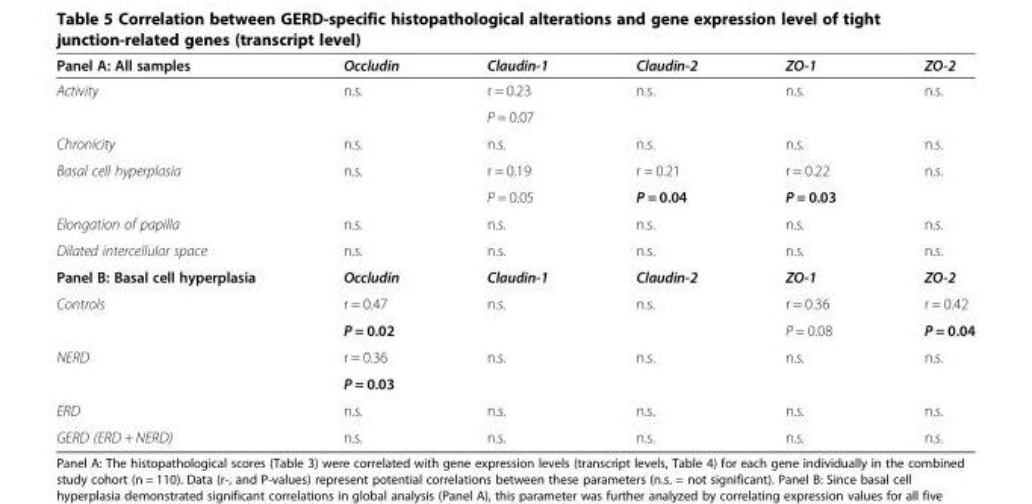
<table><thead><tr><td>Panel A: All samples</td><td>Occludin</td><td>Claudin-1</td><td>Claudin-2</td><td>ZO-1</td><td>ZO-2</td></tr></thead><tbody><tr><td rowspan="2">Activity</td><td>n.s.</td><td>r = 0.23</td><td>n.s.</td><td>n.s.</td><td>n.s.</td></tr><tr><td></td><td>P = 0.07</td><td></td><td></td><td></td></tr><tr><td>Chronicity</td><td>n.s.</td><td>n.s.</td><td>n.s.</td><td>n.s.</td><td>n.s.</td></tr><tr><td rowspan="2">Basal cell hyperplasia</td><td>n.s.</td><td>r = 0.19</td><td>r = 0.21</td><td>r = 0.22</td><td>n.s.</td></tr><tr><td></td><td>P = 0.05</td><td>P = 0.04</td><td>P = 0.03</td><td></td></tr><tr><td>Elongation of papilla</td><td>n.s.</td><td>n.s.</td><td>n.s.</td><td>n.s.</td><td>n.s.</td></tr><tr><td>Dilated intercellular space</td><td>n.s.</td><td>n.s.</td><td>n.s.</td><td>n.s.</td><td>n.s.</td></tr><tr><td>Panel B: Basal cell hyperplasia</td><td>Occludin</td><td>Claudin-1</td><td>Claudin-2</td><td>ZO-1</td><td>ZO-2</td></tr><tr><td rowspan="2">Controls</td><td>r = 0.47</td><td>n.s.</td><td>n.s.</td><td>r = 0.36</td><td>r = 0.42</td></tr><tr><td>P = 0.02</td><td></td><td></td><td>P = 0.08</td><td>P = 0.04</td></tr><tr><td rowspan="2">NERD</td><td>r = 0.36</td><td>n.s.</td><td>n.s.</td><td>n.s.</td><td>n.s.</td></tr><tr><td>P = 0.03</td><td></td><td></td><td></td><td></td></tr><tr><td>ERD</td><td>n.s.</td><td>n.s.</td><td>n.s.</td><td>n.s.</td><td>n.s.</td></tr><tr><td>GERD (ERD + NERD)</td><td>n.s.</td><td>n.s.</td><td>n.s.</td><td>n.s.</td><td>n.s.</td></tr></tbody></table>